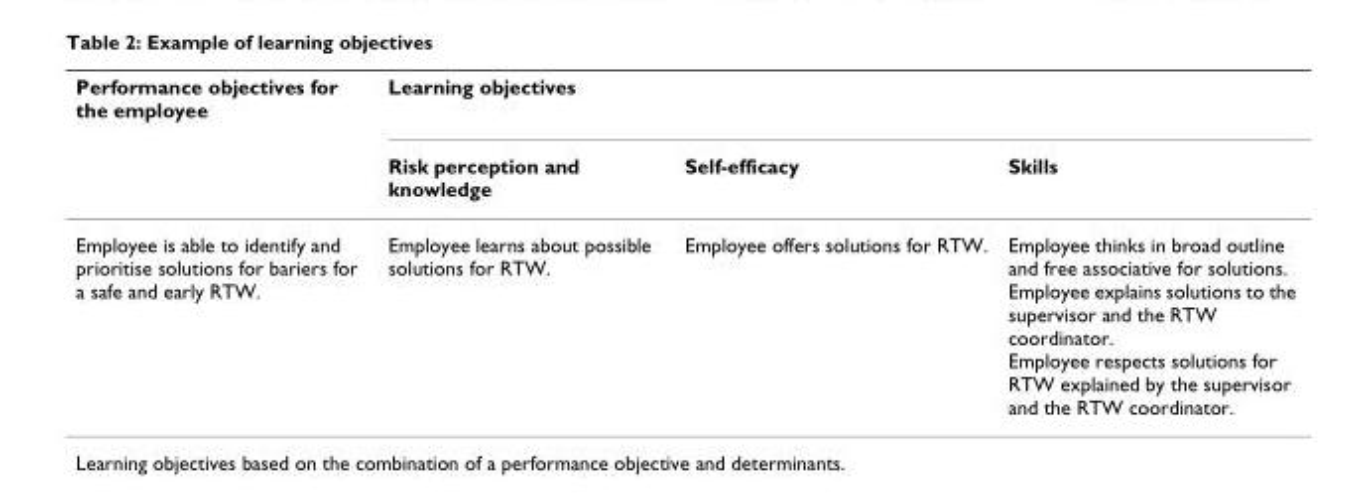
<table><thead><tr><td rowspan="2">Performance objectives for the employee</td><td colspan="3">Learning objectives</td></tr><tr><td>Risk perception and knowledge</td><td>Self-efficacy</td><td>Skills</td></tr></thead><tbody><tr><td>Employee is able to identify and prioritise solutions for bariers for a safe and early RTW.</td><td>Employee learns about possible solutions for RTW.</td><td>Employee offers solutions for RTW.</td><td>Employee thinks in broad outline and free associative for solutions. Employee explains solutions to the supervisor and the RTW coordinator. Employee respects solutions for RTW explained by the supervisor and the RTW coordinator.</td></tr></tbody></table>